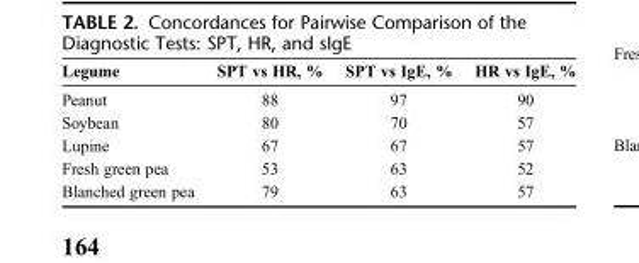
<table><thead><tr><td>Legume</td><td>SPT vs HR, %</td><td>SPT vs IgE, %</td><td>HR vs IgE, %</td></tr></thead><tbody><tr><td>Peanut</td><td>88</td><td>97</td><td>90</td></tr><tr><td>Soybean</td><td>80</td><td>70</td><td>57</td></tr><tr><td>Lupine</td><td>67</td><td>67</td><td>57</td></tr><tr><td>Fresh green pea</td><td>53</td><td>63</td><td>52</td></tr><tr><td>Blanched green pea</td><td>79</td><td>63</td><td>57</td></tr></tbody></table>